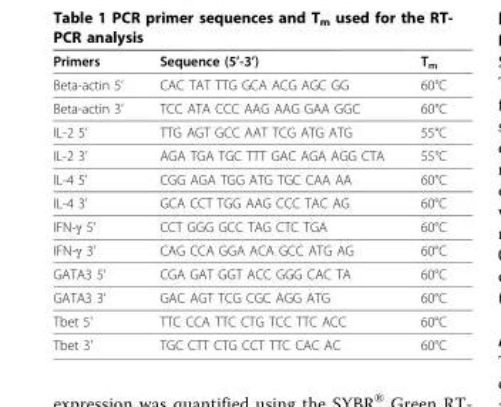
<table><thead><tr><td>Primers</td><td>Sequence (5’-3’)</td><td>T<sub>m</sub></td></tr></thead><tbody><tr><td>Beta-actin 5’</td><td>CAC TAT TTG GCA ACG AGC GG</td><td>60°C</td></tr><tr><td>Beta-actin 3’</td><td>TCC ATA CCC AAG AAG GAA GGC</td><td>60°C</td></tr><tr><td>IL-2 5’</td><td>TTG AGT GCC AAT TCG ATG ATG</td><td>55°C</td></tr><tr><td>IL-2 3’</td><td>AGA TGA TGC TTT GAC AGA AGG CTA</td><td>55°C</td></tr><tr><td>IL-4 5’</td><td>CGG AGA TGG ATG TGC CAA AA</td><td>60°C</td></tr><tr><td>IL-4 3’</td><td>GCA CCT TGG AAG CCC TAC AG</td><td>60°C</td></tr><tr><td>IFN-γ 5’</td><td>CCT GGG GCC TAG CTC TGA</td><td>60°C</td></tr><tr><td>IFN-γ 3’</td><td>CAG CCA GGA ACA GCC ATG AG</td><td>60°C</td></tr><tr><td>GATA3 5’</td><td>CGA GAT GGT ACC GGG CAC TA</td><td>60°C</td></tr><tr><td>GATA3 3’</td><td>GAC AGT TCG CGC AGG ATG</td><td>60°C</td></tr><tr><td>Tbet 5’</td><td>TTC CCA TTC CTG TCC TTC ACC</td><td>60°C</td></tr><tr><td>Tbet 3’</td><td>TGC CTT CTG CCT TTC CAC AC</td><td>60°C</td></tr></tbody></table>